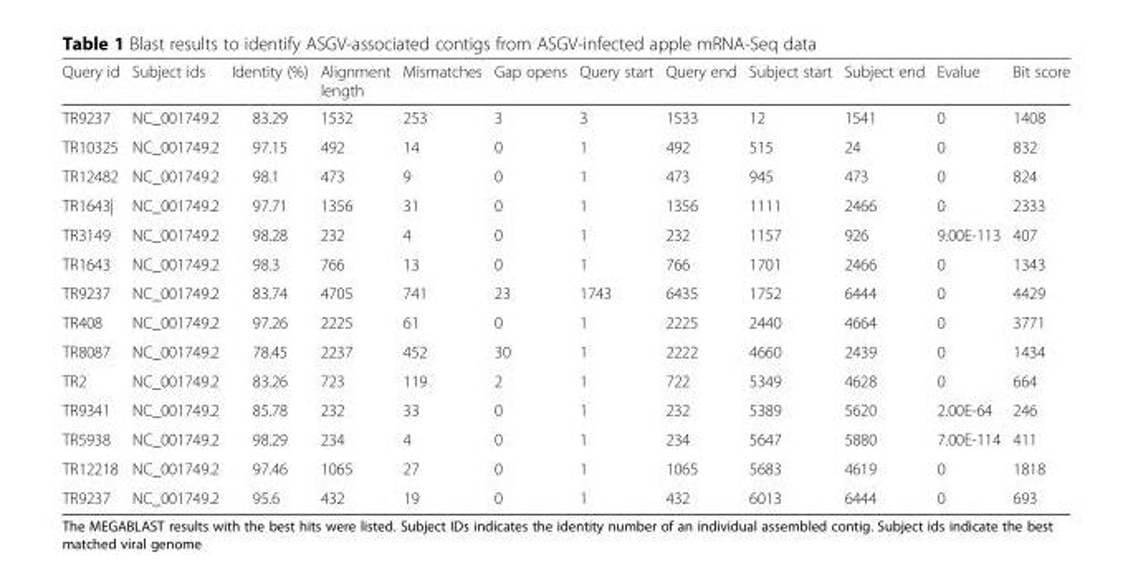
<table><thead><tr><td>Query id</td><td>Subject ids</td><td>Identity (%)</td><td>Alignment length</td><td>Mismatches</td><td>Gap opens</td><td>Query start</td><td>Query end</td><td>Subject start</td><td>Subject end</td><td>Evalue</td><td>Bit score</td></tr></thead><tbody><tr><td>TR9237</td><td>NC_001749.2</td><td>83.29</td><td>1532</td><td>253</td><td>3</td><td>3</td><td>1533</td><td>12</td><td>1541</td><td>0</td><td>1408</td></tr><tr><td>TR10325</td><td>NC_001749.2</td><td>97.15</td><td>492</td><td>14</td><td>0</td><td>1</td><td>492</td><td>515</td><td>24</td><td>0</td><td>832</td></tr><tr><td>TR12482</td><td>NC_001749.2</td><td>98.1</td><td>473</td><td>9</td><td>0</td><td>1</td><td>473</td><td>945</td><td>473</td><td>0</td><td>824</td></tr><tr><td>TR1643|</td><td>NC_001749.2</td><td>97.71</td><td>1356</td><td>31</td><td>0</td><td>1</td><td>1356</td><td>1111</td><td>2466</td><td>0</td><td>2333</td></tr><tr><td>TR3149</td><td>NC_001749.2</td><td>98.28</td><td>232</td><td>4</td><td>0</td><td>1</td><td>232</td><td>1157</td><td>926</td><td>9.00E-113</td><td>407</td></tr><tr><td>TR1643</td><td>NC_001749.2</td><td>98.3</td><td>766</td><td>13</td><td>0</td><td>1</td><td>766</td><td>1701</td><td>2466</td><td>0</td><td>1343</td></tr><tr><td>TR9237</td><td>NC_001749.2</td><td>83.74</td><td>4705</td><td>741</td><td>23</td><td>1743</td><td>6435</td><td>1752</td><td>6444</td><td>0</td><td>4429</td></tr><tr><td>TR408</td><td>NC_001749.2</td><td>97.26</td><td>2225</td><td>61</td><td>0</td><td>1</td><td>2225</td><td>2440</td><td>4664</td><td>0</td><td>3771</td></tr><tr><td>TR8087</td><td>NC_001749.2</td><td>78.45</td><td>2237</td><td>452</td><td>30</td><td>1</td><td>2222</td><td>4660</td><td>2439</td><td>0</td><td>1434</td></tr><tr><td>TR2</td><td>NC_001749.2</td><td>83.26</td><td>723</td><td>119</td><td>2</td><td>1</td><td>722</td><td>5349</td><td>4628</td><td>0</td><td>664</td></tr><tr><td>TR9341</td><td>NC_001749.2</td><td>85.78</td><td>232</td><td>33</td><td>0</td><td>1</td><td>232</td><td>5389</td><td>5620</td><td>2.00E-64</td><td>246</td></tr><tr><td>TR5938</td><td>NC_001749.2</td><td>98.29</td><td>234</td><td>4</td><td>0</td><td>1</td><td>234</td><td>5647</td><td>5880</td><td>7.00E-114</td><td>411</td></tr><tr><td>TR12218</td><td>NC_001749.2</td><td>97.46</td><td>1065</td><td>27</td><td>0</td><td>1</td><td>1065</td><td>5683</td><td>4619</td><td>0</td><td>1818</td></tr><tr><td>TR9237</td><td>NC_001749.2</td><td>95.6</td><td>432</td><td>19</td><td>0</td><td>1</td><td>432</td><td>6013</td><td>6444</td><td>0</td><td>693</td></tr></tbody></table>